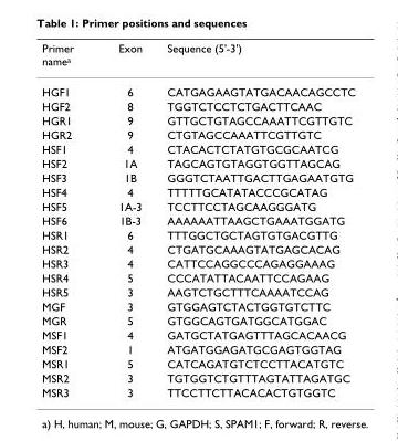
<table><thead><tr><td>Primer name<sup>a</sup></td><td>Exon</td><td>Sequence (5&#x27;-3&#x27;)</td></tr></thead><tbody><tr><td>HGF1</td><td>6</td><td>CATGAGAAGTATGACAACAGCCTC</td></tr><tr><td>HGF2</td><td>8</td><td>TGGTCTCCTCTGACTTCAAC</td></tr><tr><td>HGR1</td><td>9</td><td>GTTGCTGTAGCCAAATTCGTTGTC</td></tr><tr><td>HGR2</td><td>9</td><td>CTGTAGCCAAATTCGTTGTC</td></tr><tr><td>HSF1</td><td>4</td><td>CTACACTCTATGTGCGCAATCG</td></tr><tr><td>HSF2</td><td>1A</td><td>TAGCAGTGTAGGTGGTTAGCAG</td></tr><tr><td>HSF3</td><td>1B</td><td>GGGTCTAATTGACTTGAGAATGTG</td></tr><tr><td>HSF4</td><td>4</td><td>TTTTTGCATATACCCGCATAG</td></tr><tr><td>HSF5</td><td>1A-3</td><td>TCCTTCCTAGCAAGGGATG</td></tr><tr><td>HSF6</td><td>1B-3</td><td>AAAAAATTAAGCTGAAATGGATG</td></tr><tr><td>HSR1</td><td>6</td><td>TTTGGCTGCTAGTGTGACGTTG</td></tr><tr><td>HSR2</td><td>4</td><td>CTGATGCAAAGTATGAGCACAG</td></tr><tr><td>HSR3</td><td>4</td><td>CATTCCAGGCCCAGAGGAAAG</td></tr><tr><td>HSR4</td><td>5</td><td>CCCATATTACAATTCCAGAAG</td></tr><tr><td>HSR5</td><td>3</td><td>AAGTCTGCTTTCAAAATCCAG</td></tr><tr><td>MGF</td><td>3</td><td>GTGGAGTCTACTGGTGTCTTC</td></tr><tr><td>MGR</td><td>5</td><td>GTGGCAGTGATGGCATGGAC</td></tr><tr><td>MSF1</td><td>4</td><td>GATGCTATGAGTTTAGCACAACG</td></tr><tr><td>MSF2</td><td>1</td><td>ATGATGGAGATGCGAGTGGTAG</td></tr><tr><td>MSR1</td><td>5</td><td>CATCAGATGTCTCCTTACATGTC</td></tr><tr><td>MSR2</td><td>3</td><td>TGTGGTCTGTTTAGTATTAGATGC</td></tr><tr><td>MSR3</td><td>3</td><td>TTCCTTCTTACACACTGTGGTC</td></tr></tbody></table>